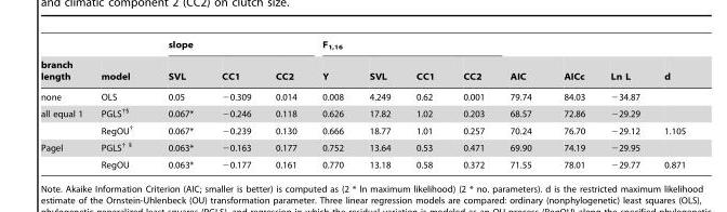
<table><thead><tr><td rowspan="2">branch length</td><td rowspan="2">model</td><td colspan="3">slope</td><td colspan="4">F<sub>1,16</sub></td><td rowspan="2">AIC</td><td rowspan="2">AICc</td><td rowspan="2">Ln L</td><td rowspan="2">d</td></tr><tr><td>SVL</td><td>CC1</td><td>CC2</td><td>Y</td><td>SVL</td><td>CC1</td><td>CC2</td></tr></thead><tbody><tr><td>none</td><td>OLS</td><td>0.05</td><td>−0.309</td><td>0.014</td><td>0.008</td><td>4.249</td><td>0.62</td><td>0.001</td><td>79.74</td><td>84.03</td><td>−34.87</td><td></td></tr><tr><td rowspan="2">all equal 1</td><td>PGLS†§</td><td>0.067*</td><td>−0.246</td><td>0.118</td><td>0.626</td><td>17.82</td><td>1.02</td><td>0.203</td><td>68.57</td><td>72.86</td><td>−29.29</td><td></td></tr><tr><td>RegOU†</td><td>0.067*</td><td>−0.239</td><td>0.130</td><td>0.666</td><td>18.77</td><td>1.01</td><td>0.257</td><td>70.24</td><td>76.70</td><td>−29.12</td><td>1.105</td></tr><tr><td rowspan="2">Pagel</td><td>PGLS† §</td><td>0.063*</td><td>−0.163</td><td>0.177</td><td>0.752</td><td>13.64</td><td>0.53</td><td>0.471</td><td>69.90</td><td>74.19</td><td>−29.95</td><td></td></tr><tr><td>RegOU</td><td>0.063*</td><td>−0.177</td><td>0.161</td><td>0.770</td><td>13.18</td><td>0.58</td><td>0.372</td><td>71.55</td><td>78.01</td><td>−29.77</td><td>0.871</td></tr></tbody></table>